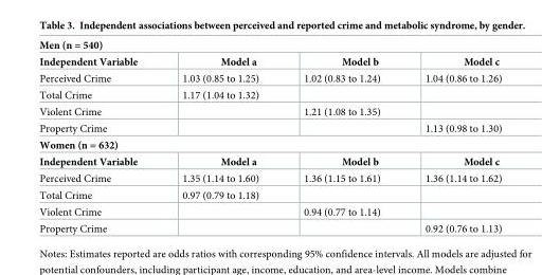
<table><tbody><tr><td colspan="4">Men (n = 540)</td></tr><tr><td>Independent Variable</td><td>Model a</td><td>Model b</td><td>Model c</td></tr><tr><td>Perceived Crime</td><td>1.03 (0.85 to 1.25)</td><td>1.02 (0.83 to 1.24)</td><td>1.04 (0.86 to 1.26)</td></tr><tr><td>Total Crime</td><td>1.17 (1.04 to 1.32)</td><td></td><td></td></tr><tr><td>Violent Crime</td><td></td><td>1.21 (1.08 to 1.35)</td><td></td></tr><tr><td>Property Crime</td><td></td><td></td><td>1.13 (0.98 to 1.30)</td></tr><tr><td colspan="4">Women (n = 632)</td></tr><tr><td>Independent Variable</td><td>Model a</td><td>Model b</td><td>Model c</td></tr><tr><td>Perceived Crime</td><td>1.35 (1.14 to 1.60)</td><td>1.36 (1.15 to 1.61)</td><td>1.36 (1.14 to 1.62)</td></tr><tr><td>Total Crime</td><td>0.97 (0.79 to 1.18)</td><td></td><td></td></tr><tr><td>Violent Crime</td><td></td><td>0.94 (0.77 to 1.14)</td><td></td></tr><tr><td>Property Crime</td><td></td><td></td><td>0.92 (0.76 to 1.13)</td></tr></tbody></table>